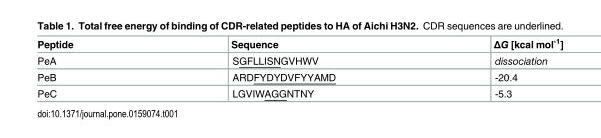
<table><thead><tr><td>Peptide</td><td>Sequence</td><td>ΔG [kcal mol<sup>-1</sup>]</td></tr></thead><tbody><tr><td>PeA</td><td>SGFLLISNGVHWV</td><td>dissociation</td></tr><tr><td>PeB</td><td>ARDFYDYDVFYYAMD</td><td>-20.4</td></tr><tr><td>PeC</td><td>LGVIWAGGNTNY</td><td>-5.3</td></tr></tbody></table>